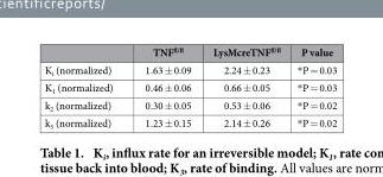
<table><thead><tr><td></td><td>TNF<sup>fl/fl</sup></td><td>LysMcreTNF<sup>fl/fl</sup></td><td>P value</td></tr></thead><tbody><tr><td>K<sub>i</sub> (normalized)</td><td>1.63 ± 0.09</td><td>2.24 ± 0.23</td><td>* P = 0.03</td></tr><tr><td>K<sub>1</sub> (normalized)</td><td>0.46 ± 0.06</td><td>0.66 ± 0.05</td><td>* P = 0.03</td></tr><tr><td>k<sub>2</sub> (normalized)</td><td>0.30 ± 0.05</td><td>0.53 ± 0.06</td><td>* P = 0.02</td></tr><tr><td>k<sub>3</sub> (normalized)</td><td>1.23 ± 0.15</td><td>2.14 ± 0.26</td><td>* P = 0.02</td></tr></tbody></table>